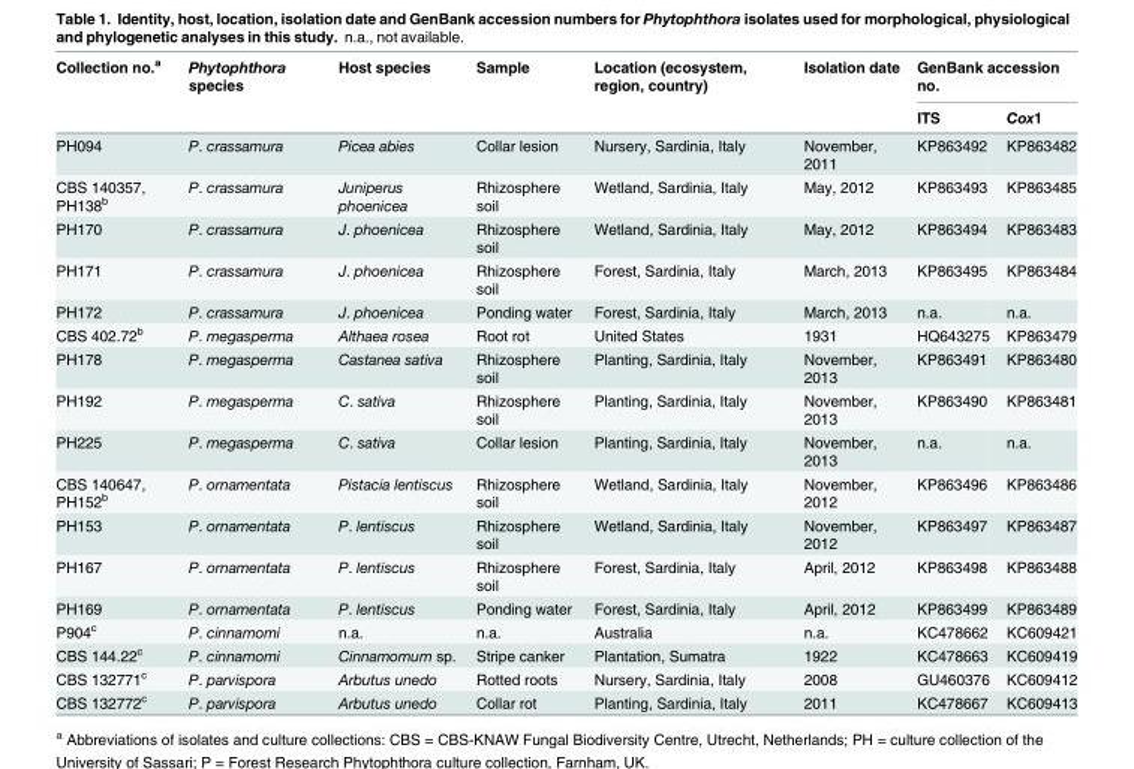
<table><thead><tr><td rowspan="2">Collection no.<sup>a</sup></td><td rowspan="2">Phytophthora species</td><td rowspan="2">Host species</td><td rowspan="2">Sample</td><td rowspan="2">Location (ecosystem, region, country)</td><td rowspan="2">Isolation date</td><td colspan="2">GenBank accession no.</td></tr><tr><td>ITS</td><td>Cox1</td></tr></thead><tbody><tr><td>PH094</td><td>P. crassamura</td><td>Picea abies</td><td>Collar lesion</td><td>Nursery, Sardinia, Italy</td><td>November, 2011</td><td>KP863492</td><td>KP863482</td></tr><tr><td>CBS 140357, PH138<sup>b</sup></td><td>P. crassamura</td><td>Juniperus phoenicea</td><td>Rhizosphere soil</td><td>Wetland, Sardinia, Italy</td><td>May, 2012</td><td>KP863493</td><td>KP863485</td></tr><tr><td>PH170</td><td>P. crassamura</td><td>J. phoenicea</td><td>Rhizosphere soil</td><td>Wetland, Sardinia, Italy</td><td>May, 2012</td><td>KP863494</td><td>KP863483</td></tr><tr><td>PH171</td><td>P. crassamura</td><td>J. phoenicea</td><td>Rhizosphere soil</td><td>Forest, Sardinia, Italy</td><td>March, 2013</td><td>KP863495</td><td>KP863484</td></tr><tr><td>PH172</td><td>P. crassamura</td><td>J. phoenicea</td><td>Ponding water</td><td>Forest, Sardinia, Italy</td><td>March, 2013</td><td>n.a.</td><td>n.a.</td></tr><tr><td>CBS 402.72<sup>b</sup></td><td>P. megasperma</td><td>Althaea rosea</td><td>Root rot</td><td>United States</td><td>1931</td><td>HQ643275</td><td>KP863479</td></tr><tr><td>PH178</td><td>P. megasperma</td><td>Castanea sativa</td><td>Rhizosphere soil</td><td>Planting, Sardinia, Italy</td><td>November, 2013</td><td>KP863491</td><td>KP863480</td></tr><tr><td>PH192</td><td>P. megasperma</td><td>C. sativa</td><td>Rhizosphere soil</td><td>Planting, Sardinia, Italy</td><td>November, 2013</td><td>KP863490</td><td>KP863481</td></tr><tr><td>PH225</td><td>P. megasperma</td><td>C. sativa</td><td>Collar lesion</td><td>Planting, Sardinia, Italy</td><td>November, 2013</td><td>n.a.</td><td>n.a.</td></tr><tr><td>CBS 140647, PH152<sup>b</sup></td><td>P. ornamentata</td><td>Pistacia lentiscus</td><td>Rhizosphere soil</td><td>Wetland, Sardinia, Italy</td><td>November, 2012</td><td>KP863496</td><td>KP863486</td></tr><tr><td>PH153</td><td>P. ornamentata</td><td>P. lentiscus</td><td>Rhizosphere soil</td><td>Wetland, Sardinia, Italy</td><td>November, 2012</td><td>KP863497</td><td>KP863487</td></tr><tr><td>PH167</td><td>P. ornamentata</td><td>P. lentiscus</td><td>Rhizosphere soil</td><td>Forest, Sardinia, Italy</td><td>April, 2012</td><td>KP863498</td><td>KP863488</td></tr><tr><td>PH169</td><td>P. ornamentata</td><td>P. lentiscus</td><td>Ponding water</td><td>Forest, Sardinia, Italy</td><td>April, 2012</td><td>KP863499</td><td>KP863489</td></tr><tr><td>P904<sup>c</sup></td><td>P. cinnamomi</td><td>n.a.</td><td>n.a.</td><td>Australia</td><td>n.a.</td><td>KC478662</td><td>KC609421</td></tr><tr><td>CBS 144.22<sup>c</sup></td><td>P. cinnamomi</td><td>Cinnamomum sp.</td><td>Stripe canker</td><td>Plantation, Sumatra</td><td>1922</td><td>KC478663</td><td>KC609419</td></tr><tr><td>CBS 132771<sup>c</sup></td><td>P. parvispora</td><td>Arbutus unedo</td><td>Rotted roots</td><td>Nursery, Sardinia, Italy</td><td>2008</td><td>GU460376</td><td>KC609412</td></tr><tr><td>CBS 132772<sup>c</sup></td><td>P. parvispora</td><td>Arbutus unedo</td><td>Collar rot</td><td>Planting, Sardinia, Italy</td><td>2011</td><td>KC478667</td><td>KC609413</td></tr></tbody></table>